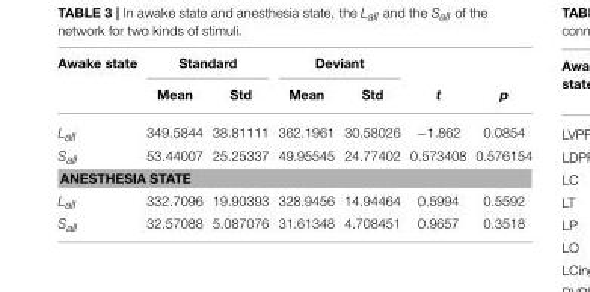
<table><thead><tr><td rowspan="2">Awake state</td><td colspan="2">Standard</td><td colspan="2">Deviant</td><td rowspan="2">t</td><td rowspan="2">p</td></tr><tr><td>Mean</td><td>Std</td><td>Mean</td><td>Std</td></tr></thead><tbody><tr><td>L<sub>all</sub></td><td>349.5844</td><td>38.81111</td><td>362.1961</td><td>30.58026</td><td>−1.862</td><td>0.0854</td></tr><tr><td>S<sub>all</sub></td><td>53.44007</td><td>25.25337</td><td>49.95545</td><td>24.77402</td><td>0.573408</td><td>0.576154</td></tr><tr><td colspan="7">ANESTHESIA STATE</td></tr><tr><td>L<sub>all</sub></td><td>332.7096</td><td>19.90393</td><td>328.9456</td><td>14.94464</td><td>0.5994</td><td>0.5592</td></tr><tr><td>S<sub>all</sub></td><td>32.57088</td><td>5.087076</td><td>31.61348</td><td>4.708451</td><td>0.9657</td><td>0.3518</td></tr></tbody></table>